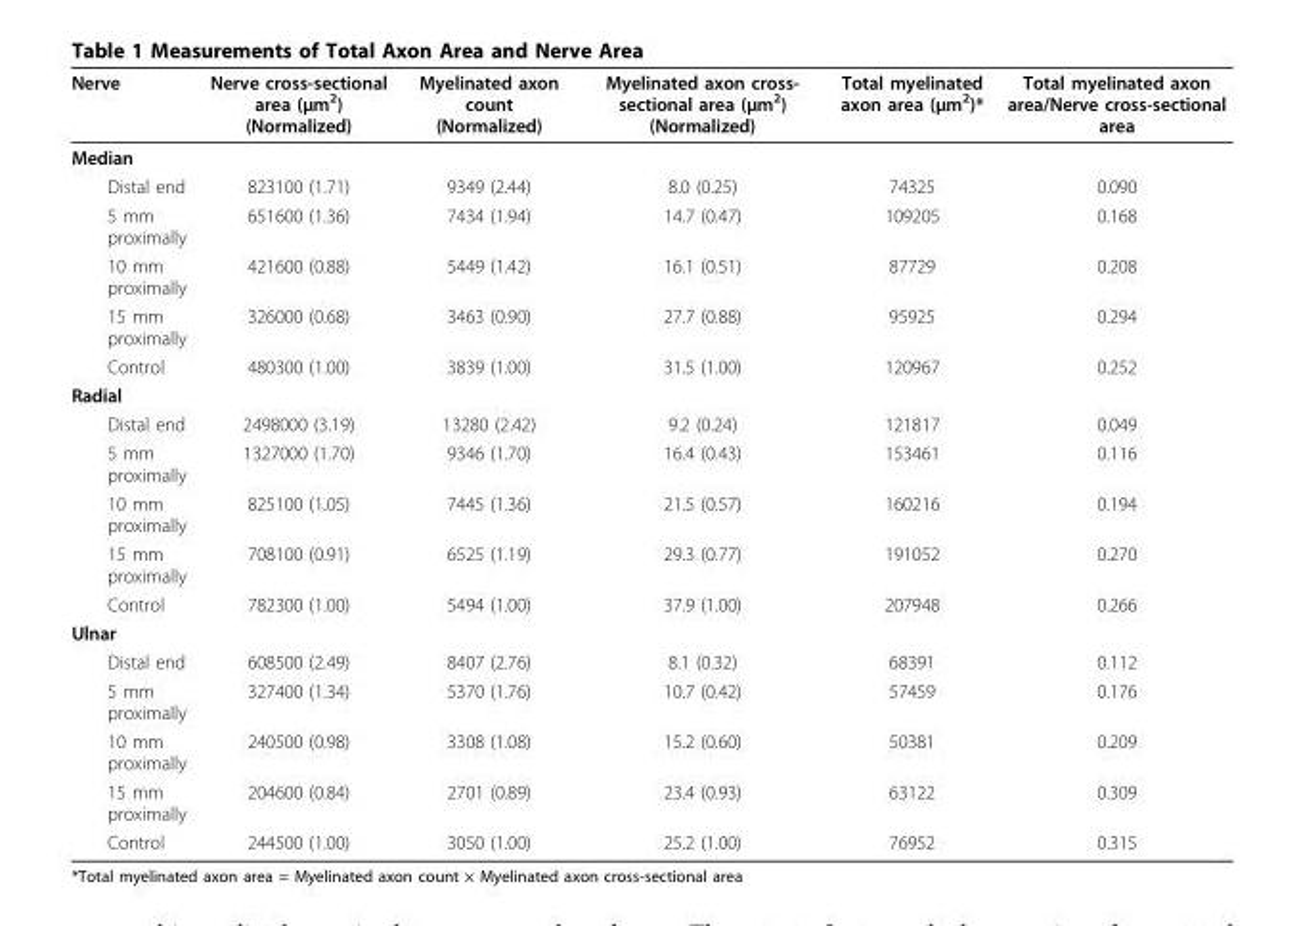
<table><thead><tr><td>Nerve</td><td>Nerve cross-sectional area (μm<sup>2</sup>) (Normalized)</td><td>Myelinated axon count (Normalized)</td><td>Myelinated axon cross- sectional area (μm<sup>2</sup>) (Normalized)</td><td>Total myelinated axon area (μm<sup>2</sup>)*</td><td>Total myelinated axon area/Nerve cross-sectional area</td></tr></thead><tbody><tr><td colspan="6">Median</td></tr><tr><td>Distal end</td><td>823100 (1.71)</td><td>9349 (2.44)</td><td>8.0 (0.25)</td><td>74325</td><td>0.090</td></tr><tr><td>5 mm proximally</td><td>651600 (1.36)</td><td>7434 (1.94)</td><td>14.7 (0.47)</td><td>109205</td><td>0.168</td></tr><tr><td>10 mm proximally</td><td>421600 (0.88)</td><td>5449 (1.42)</td><td>16.1 (0.51)</td><td>87729</td><td>0.208</td></tr><tr><td>15 mm proximally</td><td>326000 (0.68)</td><td>3463 (0.90)</td><td>27.7 (0.88)</td><td>95925</td><td>0.294</td></tr><tr><td>Control</td><td>480300 (1.00)</td><td>3839 (1.00)</td><td>31.5 (1.00)</td><td>120967</td><td>0.252</td></tr><tr><td colspan="6">Radial</td></tr><tr><td>Distal end</td><td>2498000 (3.19)</td><td>13280 (2.42)</td><td>9.2 (0.24)</td><td>121817</td><td>0.049</td></tr><tr><td>5 mm proximally</td><td>1327000 (1.70)</td><td>9346 (1.70)</td><td>16.4 (0.43)</td><td>153461</td><td>0.116</td></tr><tr><td>10 mm proximally</td><td>825100 (1.05)</td><td>7445 (1.36)</td><td>21.5 (0.57)</td><td>160216</td><td>0.194</td></tr><tr><td>15 mm proximally</td><td>708100 (0.91)</td><td>6525 (1.19)</td><td>29.3 (0.77)</td><td>191052</td><td>0.270</td></tr><tr><td>Control</td><td>782300 (1.00)</td><td>5494 (1.00)</td><td>37.9 (1.00)</td><td>207948</td><td>0.266</td></tr><tr><td colspan="6">Ulnar</td></tr><tr><td>Distal end</td><td>608500 (2.49)</td><td>8407 (2.76)</td><td>8.1 (0.32)</td><td>68391</td><td>0.112</td></tr><tr><td>5 mm proximally</td><td>327400 (1.34)</td><td>5370 (1.76)</td><td>10.7 (0.42)</td><td>57459</td><td>0.176</td></tr><tr><td>10 mm proximally</td><td>240500 (0.98)</td><td>3308 (1.08)</td><td>15.2 (0.60)</td><td>50381</td><td>0.209</td></tr><tr><td>15 mm proximally</td><td>204600 (0.84)</td><td>2701 (0.89)</td><td>23.4 (0.93)</td><td>63122</td><td>0.309</td></tr><tr><td>Control</td><td>244500 (1.00)</td><td>3050 (1.00)</td><td>25.2 (1.00)</td><td>76952</td><td>0.315</td></tr></tbody></table>